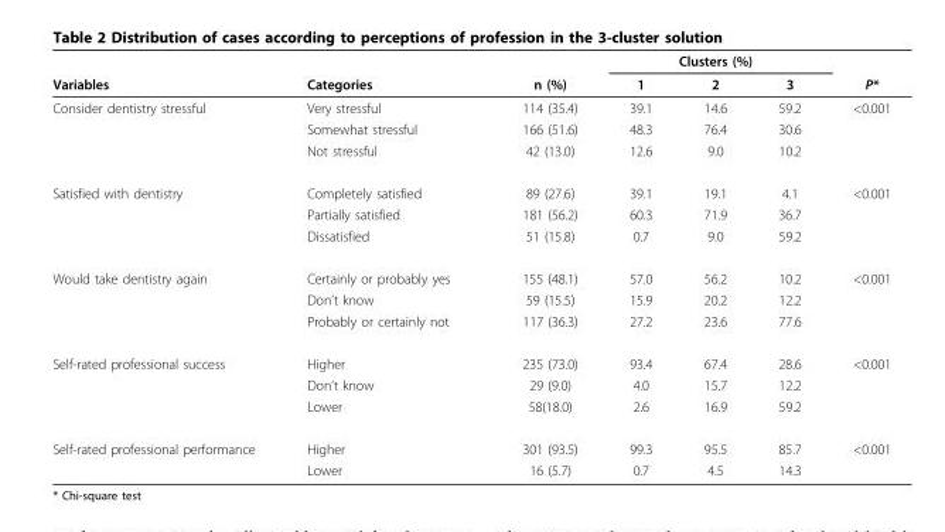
<table><thead><tr><td rowspan="2">Variables</td><td rowspan="2">Categories</td><td rowspan="2">n (%)</td><td colspan="3">Clusters (%)</td><td rowspan="2">P*</td></tr><tr><td>1</td><td>2</td><td>3</td></tr></thead><tbody><tr><td rowspan="3">Consider dentistry stressful</td><td>Very stressful</td><td>114 (35.4)</td><td>39.1</td><td>14.6</td><td>59.2</td><td>&lt;0.001</td></tr><tr><td>Somewhat stressful</td><td>166 (51.6)</td><td>48.3</td><td>76.4</td><td>30.6</td><td></td></tr><tr><td>Not stressful</td><td>42 (13.0)</td><td>12.6</td><td>9.0</td><td>10.2</td><td></td></tr><tr><td rowspan="3">Satisfied with dentistry</td><td>Completely satisfied</td><td>89 (27.6)</td><td>39.1</td><td>19.1</td><td>4.1</td><td>&lt;0.001</td></tr><tr><td>Partially satisfied</td><td>181 (56.2)</td><td>60.3</td><td>71.9</td><td>36.7</td><td></td></tr><tr><td>Dissatisfied</td><td>51 (15.8)</td><td>0.7</td><td>9.0</td><td>59.2</td><td></td></tr><tr><td rowspan="3">Would take dentistry again</td><td>Certainly or probably yes</td><td>155 (48.1)</td><td>57.0</td><td>56.2</td><td>10.2</td><td>&lt;0.001</td></tr><tr><td>Don’t know</td><td>59 (15.5)</td><td>15.9</td><td>20.2</td><td>12.2</td><td></td></tr><tr><td>Probably or certainly not</td><td>117 (36.3)</td><td>27.2</td><td>23.6</td><td>77.6</td><td></td></tr><tr><td rowspan="3">Self-rated professional success</td><td>Higher</td><td>235 (73.0)</td><td>93.4</td><td>67.4</td><td>28.6</td><td>&lt;0.001</td></tr><tr><td>Don’t know</td><td>29 (9.0)</td><td>4.0</td><td>15.7</td><td>12.2</td><td></td></tr><tr><td>Lower</td><td>58(18.0)</td><td>2.6</td><td>16.9</td><td>59.2</td><td></td></tr><tr><td rowspan="2">Self-rated professional performance</td><td>Higher</td><td>301 (93.5)</td><td>99.3</td><td>95.5</td><td>85.7</td><td>&lt;0.001</td></tr><tr><td>Lower</td><td>16 (5.7)</td><td>0.7</td><td>4.5</td><td>14.3</td><td></td></tr></tbody></table>